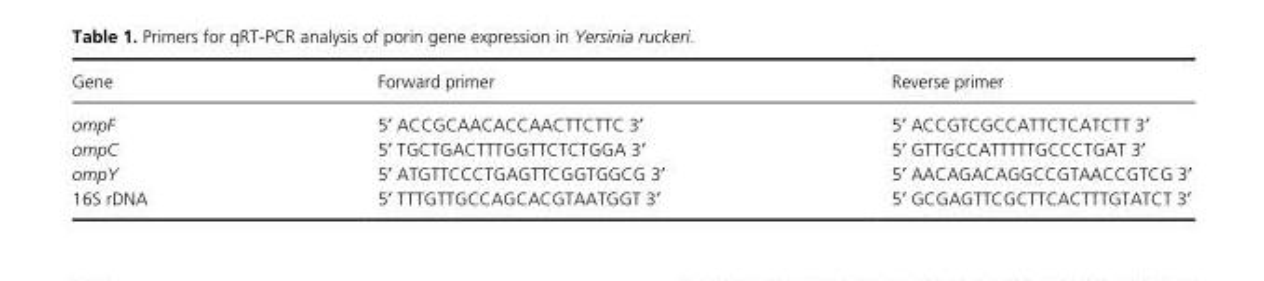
<table><thead><tr><td>Gene</td><td>Forward primer</td><td>Reverse primer</td></tr></thead><tbody><tr><td>ompF</td><td>5′ ACCGCAACACCAACTTCTTC 3′</td><td>5′ ACCGTCGCCATTCTCATCTT 3′</td></tr><tr><td>ompC</td><td>5′ TGCTGACTTTGGTTCTCTGGA 3′</td><td>5′ GTTGCCATTTTTGCCCTGAT 3′</td></tr><tr><td>ompY</td><td>5′ ATGTTCCCTGAGTTCGGTGGCG 3′</td><td>5′ AACAGACAGGCCGTAACCGTCG 3′</td></tr><tr><td>16S rDNA</td><td>5′ TTTGTTGCCAGCACGTAATGGT 3′</td><td>5′ GCGAGTTCGCTTCACTTTGTATCT 3′</td></tr></tbody></table>